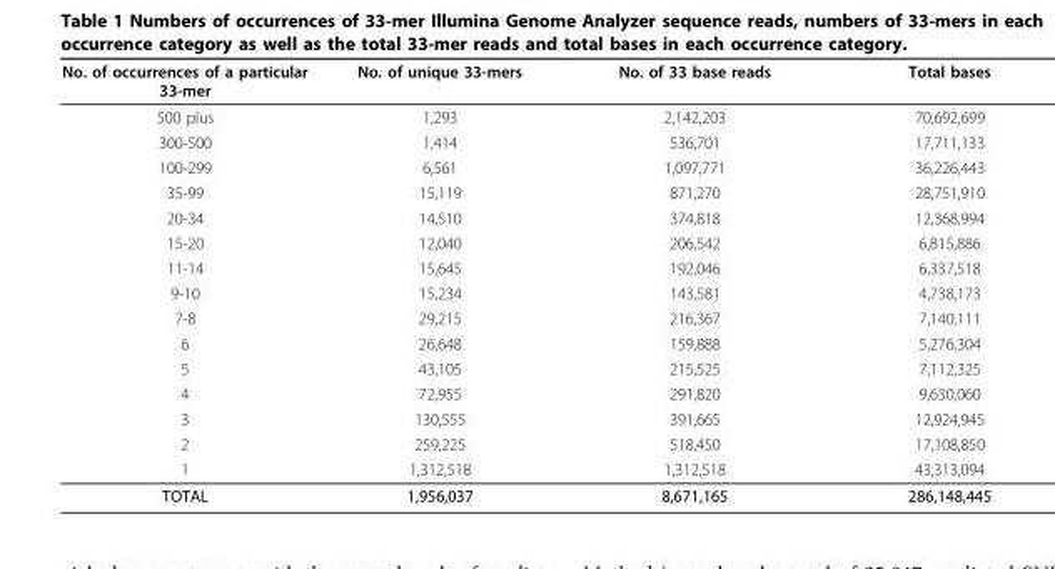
<table><thead><tr><td>No. of occurrences of a particular 33-mer</td><td>No. of unique 33-mers</td><td>No. of 33 base reads</td><td>Total bases</td></tr></thead><tbody><tr><td>500 plus</td><td>1,293</td><td>2,142,203</td><td>70,692,699</td></tr><tr><td>300-500</td><td>1,414</td><td>536,701</td><td>17,711,133</td></tr><tr><td>100-299</td><td>6,561</td><td>1,097,771</td><td>36,226,443</td></tr><tr><td>35-99</td><td>15,119</td><td>871,270</td><td>28,751,910</td></tr><tr><td>20-34</td><td>14,510</td><td>374,818</td><td>12,368,994</td></tr><tr><td>15-20</td><td>12,040</td><td>206,542</td><td>6,815,886</td></tr><tr><td>11-14</td><td>15,645</td><td>192,046</td><td>6,337,518</td></tr><tr><td>9-10</td><td>15,234</td><td>143,581</td><td>4,738,173</td></tr><tr><td>7-8</td><td>29,215</td><td>216,367</td><td>7,140,111</td></tr><tr><td>6</td><td>26,648</td><td>159,888</td><td>5,276,304</td></tr><tr><td>5</td><td>43,105</td><td>215,525</td><td>7,112,325</td></tr><tr><td>4</td><td>72,955</td><td>291,820</td><td>9,630,060</td></tr><tr><td>3</td><td>130,555</td><td>391,665</td><td>12,924,945</td></tr><tr><td>2</td><td>259,225</td><td>518,450</td><td>17,108,850</td></tr><tr><td>1</td><td>1,312,518</td><td>1,312,518</td><td>43,313,094</td></tr><tr><td>TOTAL</td><td>1,956,037</td><td>8,671,165</td><td>286,148,445</td></tr></tbody></table>